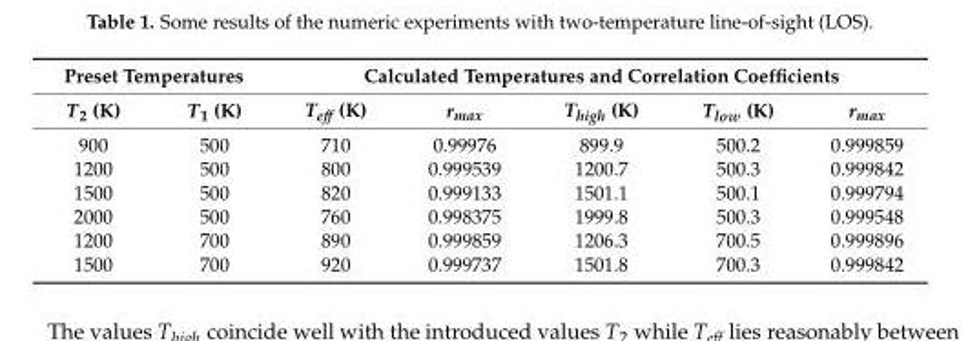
<table><thead><tr><td colspan="2">Preset Temperatures</td><td colspan="5">Calculated Temperatures and Correlation Coefficients</td></tr><tr><td>T<sub>2</sub> (K)</td><td>T<sub>1</sub> (K)</td><td>T<sub>eff</sub> (K)</td><td>r<sub>max</sub></td><td>T<sub>high</sub> (K)</td><td>T<sub>low</sub> (K)</td><td>r<sub>max</sub></td></tr></thead><tbody><tr><td>900</td><td>500</td><td>710</td><td>0.99976</td><td>899.9</td><td>500.2</td><td>0.999859</td></tr><tr><td>1200</td><td>500</td><td>800</td><td>0.999539</td><td>1200.7</td><td>500.3</td><td>0.999842</td></tr><tr><td>1500</td><td>500</td><td>820</td><td>0.999133</td><td>1501.1</td><td>500.1</td><td>0.999794</td></tr><tr><td>2000</td><td>500</td><td>760</td><td>0.998375</td><td>1999.8</td><td>500.3</td><td>0.999548</td></tr><tr><td>1200</td><td>700</td><td>890</td><td>0.999859</td><td>1206.3</td><td>700.5</td><td>0.999896</td></tr><tr><td>1500</td><td>700</td><td>920</td><td>0.999737</td><td>1501.8</td><td>700.3</td><td>0.999842</td></tr></tbody></table>